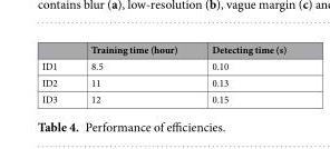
<table><thead><tr><td></td><td>Training time (hour)</td><td>Detecting time (s)</td></tr></thead><tbody><tr><td>ID1</td><td>8.5</td><td>0.10</td></tr><tr><td>ID2</td><td>11</td><td>0.13</td></tr><tr><td>ID3</td><td>12</td><td>0.15</td></tr></tbody></table>